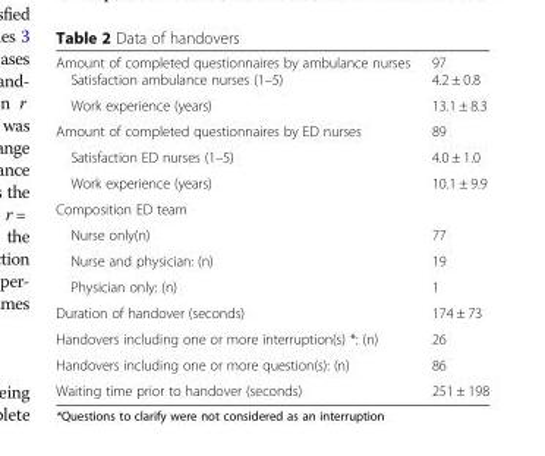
<table><thead><tr><td>Amount of completed questionnaires by ambulance nurses</td><td>97</td></tr></thead><tbody><tr><td>Satisfaction ambulance nurses (1–5)</td><td>4.2 ± 0.8</td></tr><tr><td>Work experience (years)</td><td>13.1 ± 8.3</td></tr><tr><td>Amount of completed questionnaires by ED nurses</td><td>89</td></tr><tr><td>Satisfaction ED nurses (1–5)</td><td>4.0 ± 1.0</td></tr><tr><td>Work experience (years)</td><td>10.1 ± 9.9</td></tr><tr><td colspan="2">Composition ED team</td></tr><tr><td>Nurse only(n)</td><td>77</td></tr><tr><td>Nurse and physician: (n)</td><td>19</td></tr><tr><td>Physician only: (n)</td><td>1</td></tr><tr><td>Duration of handover (seconds)</td><td>174 ± 73</td></tr><tr><td>Handovers including one or more interruption(s) *: (n)</td><td>26</td></tr><tr><td>Handovers including one or more question(s): (n)</td><td>86</td></tr><tr><td>Waiting time prior to handover (seconds)</td><td>251 ± 198</td></tr></tbody></table>